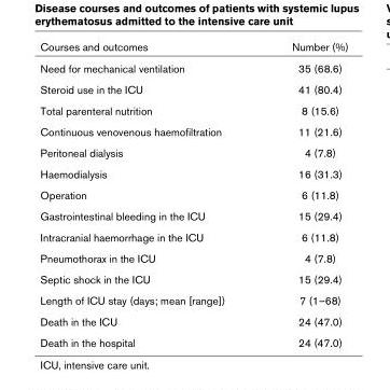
<table><thead><tr><td>Courses and outcomes</td><td>Number (%)</td></tr></thead><tbody><tr><td>Need for mechanical ventilation</td><td>35 (68.6)</td></tr><tr><td>Steroid use in the ICU</td><td>41 (80.4)</td></tr><tr><td>Total parenteral nutrition</td><td>8 (15.6)</td></tr><tr><td>Continuous venovenous haemofiltration</td><td>11 (21.6)</td></tr><tr><td>Peritoneal dialysis</td><td>4 (7.8)</td></tr><tr><td>Haemodialysis</td><td>16 (31.3)</td></tr><tr><td>Operation</td><td>6 (11.8)</td></tr><tr><td>Gastrointestinal bleeding in the ICU</td><td>15 (29.4)</td></tr><tr><td>Intracranial haemorrhage in the ICU</td><td>6 (11.8)</td></tr><tr><td>Pneumothorax in the ICU</td><td>4 (7.8)</td></tr><tr><td>Septic shock in the ICU</td><td>15 (29.4)</td></tr><tr><td>Length of ICU stay (days; mean [range])</td><td>7 (1–68)</td></tr><tr><td>Death in the ICU</td><td>24 (47.0)</td></tr><tr><td>Death in the hospital</td><td>24 (47.0)</td></tr></tbody></table>